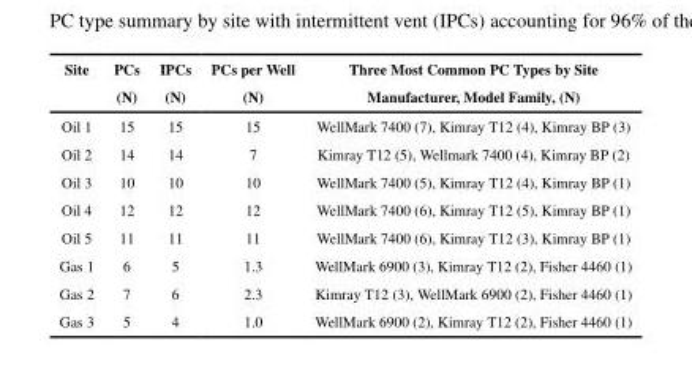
<table><thead><tr><td rowspan="2">Site</td><td rowspan="2">PCs (N)</td><td rowspan="2">IPCs (N)</td><td rowspan="2">PCs per Well (N)</td><td rowspan="2">Three Most Common PC Types by Site Manufacturer, Model Family, (N)</td></tr><tr></tr></thead><tbody><tr><td>Oil 1</td><td>15</td><td>15</td><td>15</td><td>WellMark 7400 (7), Kimray T12 (4), Kimray BP (3)</td></tr><tr><td>Oil 2</td><td>14</td><td>14</td><td>7</td><td>Kimray T12 (5), Wellmark 7400 (4), Kimray BP (2)</td></tr><tr><td>Oil 3</td><td>10</td><td>10</td><td>10</td><td>WellMark 7400 (5), Kimray T12 (4), Kimray BP (1)</td></tr><tr><td>Oil 4</td><td>12</td><td>12</td><td>12</td><td>WellMark 7400 (6), Kimray T12 (5), Kimray BP (1)</td></tr><tr><td>Oil 5</td><td>11</td><td>11</td><td>11</td><td>WellMark 7400 (6), Kimray T12 (3), Kimray BP (1)</td></tr><tr><td>Gas 1</td><td>6</td><td>5</td><td>1.3</td><td>WellMark 6900 (3), Kimray T12 (2), Fisher 4460 (1)</td></tr><tr><td>Gas 2</td><td>7</td><td>6</td><td>2.3</td><td>Kimray T12 (3), WellMark 6900 (2), Fisher 4460 (1)</td></tr><tr><td>Gas 3</td><td>5</td><td>4</td><td>1.0</td><td>WellMark 6900 (2), Kimray T12 (2), Fisher 4460 (1)</td></tr></tbody></table>